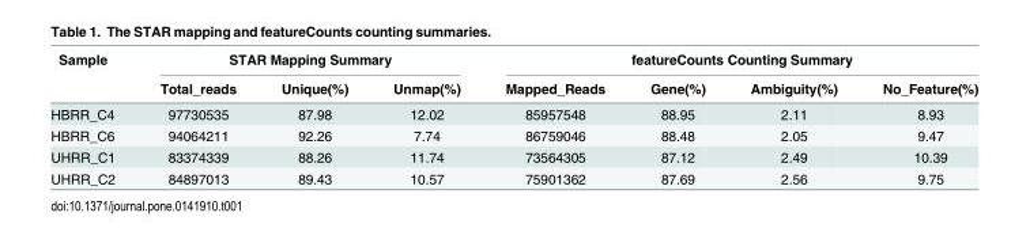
<table><thead><tr><td rowspan="2">Sample</td><td colspan="3">STAR Mapping Summary</td><td colspan="4">featureCounts Counting Summary</td></tr><tr><td>Total_reads</td><td>Unique(%)</td><td>Unmap(%)</td><td>Mapped_Reads</td><td>Gene(%)</td><td>Ambiguity(%)</td><td>No_Feature(%)</td></tr></thead><tbody><tr><td>HBRR_C4</td><td>97730535</td><td>87.98</td><td>12.02</td><td>85957548</td><td>88.95</td><td>2.11</td><td>8.93</td></tr><tr><td>HBRR_C6</td><td>94064211</td><td>92.26</td><td>7.74</td><td>86759046</td><td>88.48</td><td>2.05</td><td>9.47</td></tr><tr><td>UHRR_C1</td><td>83374339</td><td>88.26</td><td>11.74</td><td>73564305</td><td>87.12</td><td>2.49</td><td>10.39</td></tr><tr><td>UHRR_C2</td><td>84897013</td><td>89.43</td><td>10.57</td><td>75901362</td><td>87.69</td><td>2.56</td><td>9.75</td></tr></tbody></table>